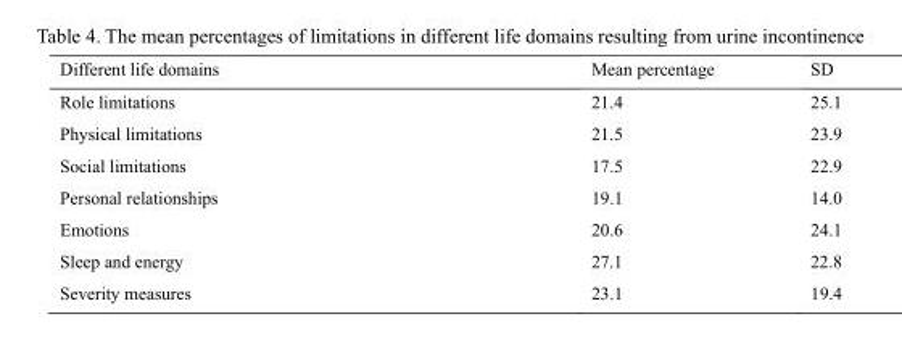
<table><thead><tr><td>Different life domains</td><td>Mean percentage</td><td>SD</td></tr></thead><tbody><tr><td>Role limitations</td><td>21.4</td><td>25.1</td></tr><tr><td>Physical limitations</td><td>21.5</td><td>23.9</td></tr><tr><td>Social limitations</td><td>17.5</td><td>22.9</td></tr><tr><td>Personal relationships</td><td>19.1</td><td>14.0</td></tr><tr><td>Emotions</td><td>20.6</td><td>24.1</td></tr><tr><td>Sleep and energy</td><td>27.1</td><td>22.8</td></tr><tr><td>Severity measures</td><td>23.1</td><td>19.4</td></tr></tbody></table>